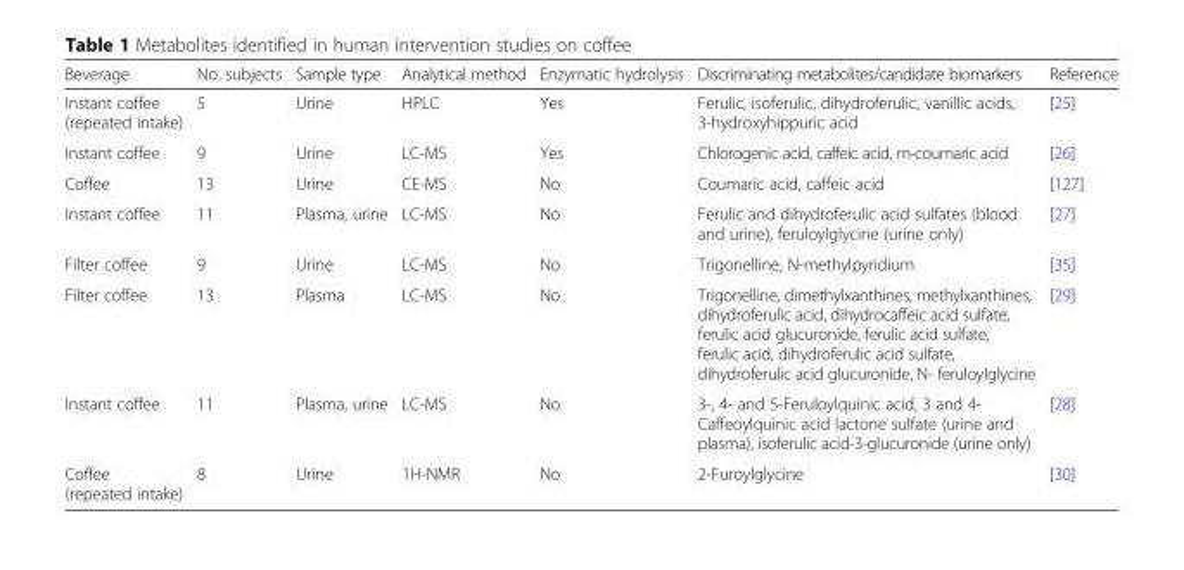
<table><thead><tr><td>Beverage</td><td>No. subjects</td><td>Sample type</td><td>Analytical method</td><td>Enzymatic hydrolysis</td><td>Discriminating metabolites/candidate biomarkers</td><td>Reference</td></tr></thead><tbody><tr><td>Instant coffee (repeated intake)</td><td>5</td><td>Urine</td><td>HPLC</td><td>Yes</td><td>Ferulic, isoferulic, dihydroferulic, vanillic acids, 3-hydroxyhippuric acid</td><td>[25]</td></tr><tr><td>Instant coffee</td><td>9</td><td>Urine</td><td>LC-MS</td><td>Yes</td><td>Chlorogenic acid, caffeic acid, m-coumaric acid</td><td>[26]</td></tr><tr><td>Coffee</td><td>13</td><td>Urine</td><td>CE-MS</td><td>No</td><td>Coumaric acid, caffeic acid</td><td>[127]</td></tr><tr><td>Instant coffee</td><td>11</td><td>Plasma, urine</td><td>LC-MS</td><td>No</td><td>Ferulic and dihydroferulic acid sulfates (blood and urine), feruloylglycine (urine only)</td><td>[27]</td></tr><tr><td>Filter coffee</td><td>9</td><td>Urine</td><td>LC-MS</td><td>No</td><td>Trigonelline, N-methylpyridium</td><td>[35]</td></tr><tr><td>Filter coffee</td><td>13</td><td>Plasma</td><td>LC-MS</td><td>No</td><td>Trigonelline, dimethylxanthines, methylxanthines, dihydroferulic acid, dihydrocaffeic acid sulfate, ferulic acid glucuronide, ferulic acid sulfate, ferulic acid, dihydroferulic acid sulfate, dihydroferulic acid glucuronide, N- feruloylglycine</td><td>[29]</td></tr><tr><td>Instant coffee</td><td>11</td><td>Plasma, urine</td><td>LC-MS</td><td>No</td><td>3-, 4- and 5-Feruloylquinic acid, 3 and 4- Caffeoylquinic acid lactone sulfate (urine and plasma), isoferulic acid-3-glucuronide (urine only)</td><td>[28]</td></tr><tr><td>Coffee (repeated intake)</td><td>8</td><td>Urine</td><td>1H-NMR</td><td>No</td><td>2-Furoylglycine</td><td>[30]</td></tr></tbody></table>